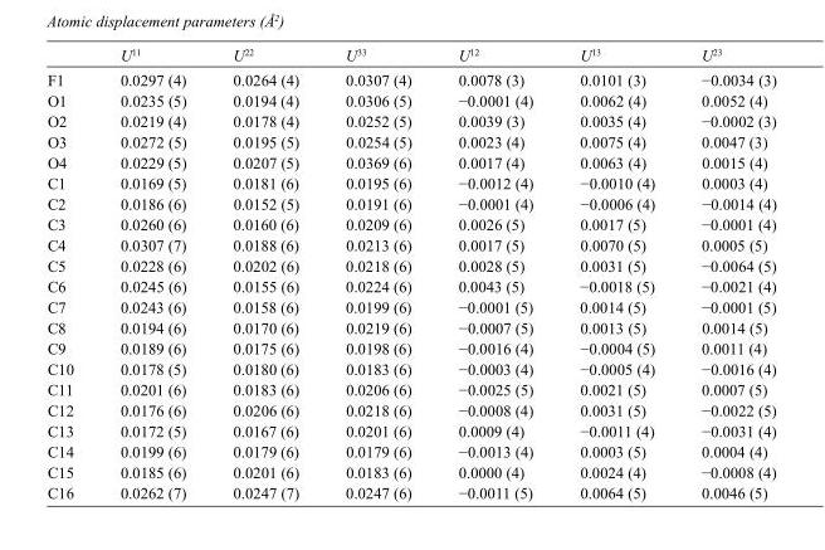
<table><thead><tr><td></td><td>U<sup>11</sup></td><td>U<sup>22</sup></td><td>U<sup>33</sup></td><td>U<sup>12</sup></td><td>U<sup>13</sup></td><td>U<sup>23</sup></td></tr></thead><tbody><tr><td>F1</td><td>0.0297 (4)</td><td>0.0264 (4)</td><td>0.0307 (4)</td><td>0.0078 (3)</td><td>0.0101 (3)</td><td>−0.0034 (3)</td></tr><tr><td>O1</td><td>0.0235 (5)</td><td>0.0194 (4)</td><td>0.0306 (5)</td><td>−0.0001 (4)</td><td>0.0062 (4)</td><td>0.0052 (4)</td></tr><tr><td>O2</td><td>0.0219 (4)</td><td>0.0178 (4)</td><td>0.0252 (5)</td><td>0.0039 (3)</td><td>0.0035 (4)</td><td>−0.0002 (3)</td></tr><tr><td>O3</td><td>0.0272 (5)</td><td>0.0195 (5)</td><td>0.0254 (5)</td><td>0.0023 (4)</td><td>0.0075 (4)</td><td>0.0047 (3)</td></tr><tr><td>O4</td><td>0.0229 (5)</td><td>0.0207 (5)</td><td>0.0369 (6)</td><td>0.0017 (4)</td><td>0.0063 (4)</td><td>0.0015 (4)</td></tr><tr><td>C1</td><td>0.0169 (5)</td><td>0.0181 (6)</td><td>0.0195 (6)</td><td>−0.0012 (4)</td><td>−0.0010 (4)</td><td>0.0003 (4)</td></tr><tr><td>C2</td><td>0.0186 (6)</td><td>0.0152 (5)</td><td>0.0191 (6)</td><td>−0.0001 (4)</td><td>−0.0006 (4)</td><td>−0.0014 (4)</td></tr><tr><td>C3</td><td>0.0260 (6)</td><td>0.0160 (6)</td><td>0.0209 (6)</td><td>0.0026 (5)</td><td>0.0017 (5)</td><td>−0.0001 (4)</td></tr><tr><td>C4</td><td>0.0307 (7)</td><td>0.0188 (6)</td><td>0.0213 (6)</td><td>0.0017 (5)</td><td>0.0070 (5)</td><td>0.0005 (5)</td></tr><tr><td>C5</td><td>0.0228 (6)</td><td>0.0202 (6)</td><td>0.0218 (6)</td><td>0.0028 (5)</td><td>0.0031 (5)</td><td>−0.0064 (5)</td></tr><tr><td>C6</td><td>0.0245 (6)</td><td>0.0155 (6)</td><td>0.0224 (6)</td><td>0.0043 (5)</td><td>−0.0018 (5)</td><td>−0.0021 (4)</td></tr><tr><td>C7</td><td>0.0243 (6)</td><td>0.0158 (6)</td><td>0.0199 (6)</td><td>−0.0001 (5)</td><td>0.0014 (5)</td><td>−0.0001 (5)</td></tr><tr><td>C8</td><td>0.0194 (6)</td><td>0.0170 (6)</td><td>0.0219 (6)</td><td>−0.0007 (5)</td><td>0.0013 (5)</td><td>0.0014 (5)</td></tr><tr><td>C9</td><td>0.0189 (6)</td><td>0.0175 (6)</td><td>0.0198 (6)</td><td>−0.0016 (4)</td><td>−0.0004 (5)</td><td>0.0011 (4)</td></tr><tr><td>C10</td><td>0.0178 (5)</td><td>0.0180 (6)</td><td>0.0183 (6)</td><td>−0.0003 (4)</td><td>−0.0005 (4)</td><td>−0.0016 (4)</td></tr><tr><td>C11</td><td>0.0201 (6)</td><td>0.0183 (6)</td><td>0.0206 (6)</td><td>−0.0025 (5)</td><td>0.0021 (5)</td><td>0.0007 (5)</td></tr><tr><td>C12</td><td>0.0176 (6)</td><td>0.0206 (6)</td><td>0.0218 (6)</td><td>−0.0008 (4)</td><td>0.0031 (5)</td><td>−0.0022 (5)</td></tr><tr><td>C13</td><td>0.0172 (5)</td><td>0.0167 (6)</td><td>0.0201 (6)</td><td>0.0009 (4)</td><td>−0.0011 (4)</td><td>−0.0031 (4)</td></tr><tr><td>C14</td><td>0.0199 (6)</td><td>0.0179 (6)</td><td>0.0179 (6)</td><td>−0.0013 (4)</td><td>0.0003 (5)</td><td>0.0004 (4)</td></tr><tr><td>C15</td><td>0.0185 (6)</td><td>0.0201 (6)</td><td>0.0183 (6)</td><td>0.0000 (4)</td><td>0.0024 (4)</td><td>−0.0008 (4)</td></tr><tr><td>C16</td><td>0.0262 (7)</td><td>0.0247 (7)</td><td>0.0247 (6)</td><td>−0.0011 (5)</td><td>0.0064 (5)</td><td>0.0046 (5)</td></tr></tbody></table>